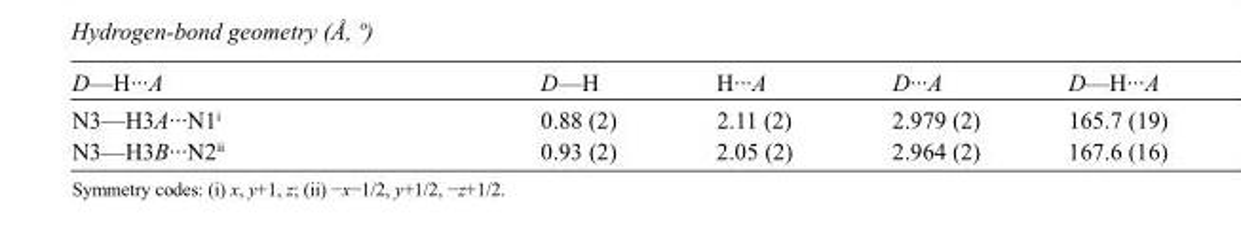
<table><tbody><tr><td>D—H···A</td><td>D—H</td><td>H···A</td><td>D···A</td><td>D—H···A</td></tr><tr><td>N3—H3A···N1<sup>i</sup></td><td>0.88 (2)</td><td>2.11 (2)</td><td>2.979 (2)</td><td>165.7 (19)</td></tr><tr><td>N3—H3B···N2<sup>ii</sup></td><td>0.93 (2)</td><td>2.05 (2)</td><td>2.964 (2)</td><td>167.6 (16)</td></tr></tbody></table>